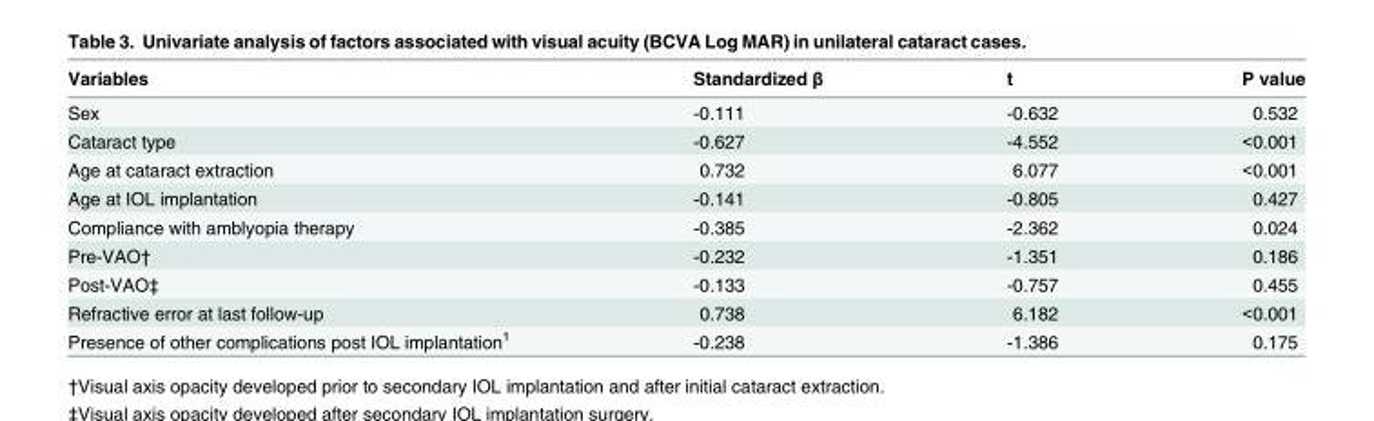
<table><thead><tr><td>Variables</td><td>Standardized β</td><td>t</td><td>P value</td></tr></thead><tbody><tr><td>Sex</td><td>-0.111</td><td>-0.632</td><td>0.532</td></tr><tr><td>Cataract type</td><td>-0.627</td><td>-4.552</td><td>&lt;0.001</td></tr><tr><td>Age at cataract extraction</td><td>0.732</td><td>6.077</td><td>&lt;0.001</td></tr><tr><td>Age at IOL implantation</td><td>-0.141</td><td>-0.805</td><td>0.427</td></tr><tr><td>Compliance with amblyopia therapy</td><td>-0.385</td><td>-2.362</td><td>0.024</td></tr><tr><td>Pre-VAO†</td><td>-0.232</td><td>-1.351</td><td>0.186</td></tr><tr><td>Post-VAO‡</td><td>-0.133</td><td>-0.757</td><td>0.455</td></tr><tr><td>Refractive error at last follow-up</td><td>0.738</td><td>6.182</td><td>&lt;0.001</td></tr><tr><td>Presence of other complications post IOL implantation<sup>1</sup></td><td>-0.238</td><td>-1.386</td><td>0.175</td></tr></tbody></table>